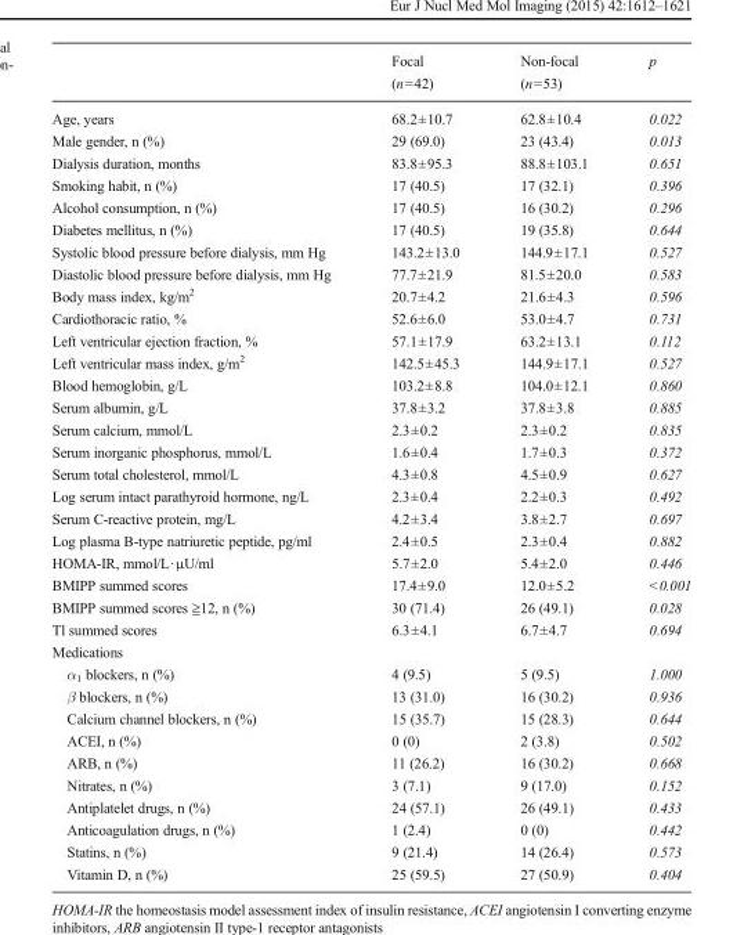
<table><thead><tr><td></td><td>Focal (n=42)</td><td>Non-focal (n=53)</td><td>p</td></tr></thead><tbody><tr><td>Age, years</td><td>68.2±10.7</td><td>62.8±10.4</td><td>0.022</td></tr><tr><td>Male gender, n (%)</td><td>29 (69.0)</td><td>23 (43.4)</td><td>0.013</td></tr><tr><td>Dialysis duration, months</td><td>83.8±95.3</td><td>88.8±103.1</td><td>0.651</td></tr><tr><td>Smoking habit, n (%)</td><td>17 (40.5)</td><td>17 (32.1)</td><td>0.396</td></tr><tr><td>Alcohol consumption, n (%)</td><td>17 (40.5)</td><td>16 (30.2)</td><td>0.296</td></tr><tr><td>Diabetes mellitus, n (%)</td><td>17 (40.5)</td><td>19 (35.8)</td><td>0.644</td></tr><tr><td>Systolic blood pressure before dialysis, mm Hg</td><td>143.2±13.0</td><td>144.9±17.1</td><td>0.527</td></tr><tr><td>Diastolic blood pressure before dialysis, mm Hg</td><td>77.7±21.9</td><td>81.5±20.0</td><td>0.583</td></tr><tr><td>Body mass index, kg/m<sup>2</sup></td><td>20.7±4.2</td><td>21.6±4.3</td><td>0.596</td></tr><tr><td>Cardiothoracic ratio, %</td><td>52.6±6.0</td><td>53.0±4.7</td><td>0.731</td></tr><tr><td>Left ventricular ejection fraction, %</td><td>57.1±17.9</td><td>63.2±13.1</td><td>0.112</td></tr><tr><td>Left ventricular mass index, g/m<sup>2</sup></td><td>142.5±45.3</td><td>144.9±17.1</td><td>0.527</td></tr><tr><td>Blood hemoglobin, g/L</td><td>103.2±8.8</td><td>104.0±12.1</td><td>0.860</td></tr><tr><td>Serum albumin, g/L</td><td>37.8±3.2</td><td>37.8±3.8</td><td>0.885</td></tr><tr><td>Serum calcium, mmol/L</td><td>2.3±0.2</td><td>2.3±0.2</td><td>0.835</td></tr><tr><td>Serum inorganic phosphorus, mmol/L</td><td>1.6±0.4</td><td>1.7±0.3</td><td>0.372</td></tr><tr><td>Serum total cholesterol, mmol/L</td><td>4.3±0.8</td><td>4.5±0.9</td><td>0.627</td></tr><tr><td>Log serum intact parathyroid hormone, ng/L</td><td>2.3±0.4</td><td>2.2±0.3</td><td>0.492</td></tr><tr><td>Serum C-reactive protein, mg/L</td><td>4.2±3.4</td><td>3.8±2.7</td><td>0.697</td></tr><tr><td>Log plasma B-type natriuretic peptide, pg/ml</td><td>2.4±0.5</td><td>2.3±0.4</td><td>0.882</td></tr><tr><td>HOMA-IR, mmol/L·μU/ml</td><td>5.7±2.0</td><td>5.4±2.0</td><td>0.446</td></tr><tr><td>BMIPP summed scores</td><td>17.4±9.0</td><td>12.0±5.2</td><td>&lt;0.001</td></tr><tr><td>BMIPP summed scores ≧12, n (%)</td><td>30 (71.4)</td><td>26 (49.1)</td><td>0.028</td></tr><tr><td>Tl summed scores</td><td>6.3±4.1</td><td>6.7±4.7</td><td>0.694</td></tr><tr><td colspan="4">Medications</td></tr><tr><td>α<sub>1</sub> blockers, n (%)</td><td>4 (9.5)</td><td>5 (9.5)</td><td>1.000</td></tr><tr><td>β blockers, n (%)</td><td>13 (31.0)</td><td>16 (30.2)</td><td>0.936</td></tr><tr><td>Calcium channel blockers, n (%)</td><td>15 (35.7)</td><td>15 (28.3)</td><td>0.644</td></tr><tr><td>ACEI, n (%)</td><td>0 (0)</td><td>2 (3.8)</td><td>0.502</td></tr><tr><td>ARB, n (%)</td><td>11 (26.2)</td><td>16 (30.2)</td><td>0.668</td></tr><tr><td>Nitrates, n (%)</td><td>3 (7.1)</td><td>9 (17.0)</td><td>0.152</td></tr><tr><td>Antiplatelet drugs, n (%)</td><td>24 (57.1)</td><td>26 (49.1)</td><td>0.433</td></tr><tr><td>Anticoagulation drugs, n (%)</td><td>1 (2.4)</td><td>0 (0)</td><td>0.442</td></tr><tr><td>Statins, n (%)</td><td>9 (21.4)</td><td>14 (26.4)</td><td>0.573</td></tr><tr><td>Vitamin D, n (%)</td><td>25 (59.5)</td><td>27 (50.9)</td><td>0.404</td></tr></tbody></table>